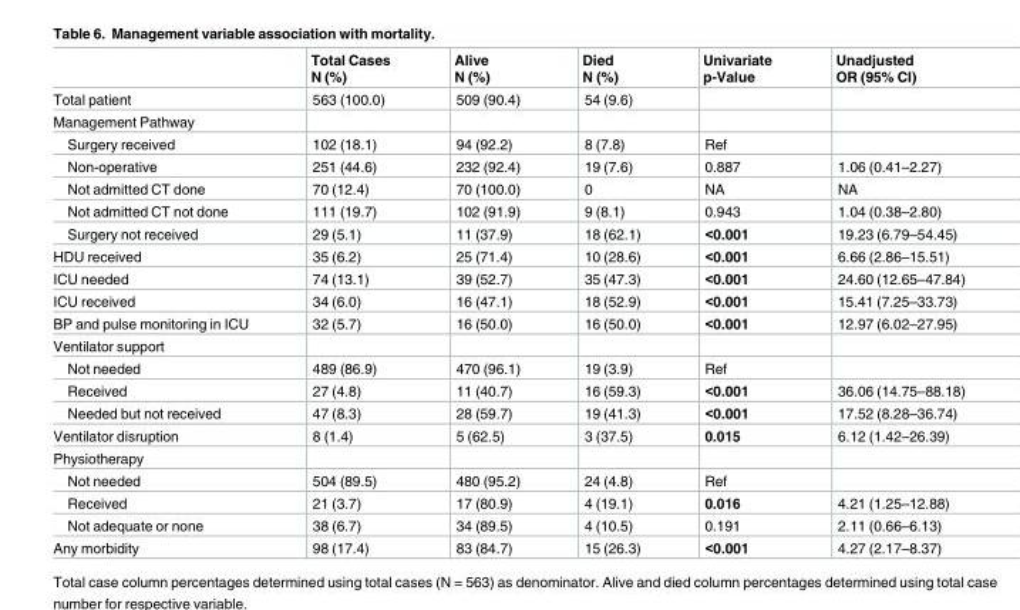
<table><thead><tr><td></td><td>Total Cases N (%)</td><td>Alive N (%)</td><td>Died N (%)</td><td>Univariate p-Value</td><td>Unadjusted OR (95% CI)</td></tr></thead><tbody><tr><td>Total patient</td><td>563 (100.0)</td><td>509 (90.4)</td><td>54 (9.6)</td><td></td><td></td></tr><tr><td colspan="6">Management Pathway</td></tr><tr><td>Surgery received</td><td>102 (18.1)</td><td>94 (92.2)</td><td>8 (7.8)</td><td>Ref</td><td></td></tr><tr><td>Non-operative</td><td>251 (44.6)</td><td>232 (92.4)</td><td>19 (7.6)</td><td>0.887</td><td>1.06 (0.41–2.27)</td></tr><tr><td>Not admitted CT done</td><td>70 (12.4)</td><td>70 (100.0)</td><td>0</td><td>NA</td><td>NA</td></tr><tr><td>Not admitted CT not done</td><td>111 (19.7)</td><td>102 (91.9)</td><td>9 (8.1)</td><td>0.943</td><td>1.04 (0.38–2.80)</td></tr><tr><td>Surgery not received</td><td>29 (5.1)</td><td>11 (37.9)</td><td>18 (62.1)</td><td>&lt;0.001</td><td>19.23 (6.79–54.45)</td></tr><tr><td>HDU received</td><td>35 (6.2)</td><td>25 (71.4)</td><td>10 (28.6)</td><td>&lt;0.001</td><td>6.66 (2.86–15.51)</td></tr><tr><td>ICU needed</td><td>74 (13.1)</td><td>39 (52.7)</td><td>35 (47.3)</td><td>&lt;0.001</td><td>24.60 (12.65–47.84)</td></tr><tr><td>ICU received</td><td>34 (6.0)</td><td>16 (47.1)</td><td>18 (52.9)</td><td>&lt;0.001</td><td>15.41 (7.25–33.73)</td></tr><tr><td>BP and pulse monitoring in ICU</td><td>32 (5.7)</td><td>16 (50.0)</td><td>16 (50.0)</td><td>&lt;0.001</td><td>12.97 (6.02–27.95)</td></tr><tr><td colspan="6">Ventilator support</td></tr><tr><td>Not needed</td><td>489 (86.9)</td><td>470 (96.1)</td><td>19 (3.9)</td><td>Ref</td><td></td></tr><tr><td>Received</td><td>27 (4.8)</td><td>11 (40.7)</td><td>16 (59.3)</td><td>&lt;0.001</td><td>36.06 (14.75–88.18)</td></tr><tr><td>Needed but not received</td><td>47 (8.3)</td><td>28 (59.7)</td><td>19 (41.3)</td><td>&lt;0.001</td><td>17.52 (8.28–36.74)</td></tr><tr><td>Ventilator disruption</td><td>8 (1.4)</td><td>5 (62.5)</td><td>3 (37.5)</td><td>0.015</td><td>6.12 (1.42–26.39)</td></tr><tr><td colspan="6">Physiotherapy</td></tr><tr><td>Not needed</td><td>504 (89.5)</td><td>480 (95.2)</td><td>24 (4.8)</td><td>Ref</td><td></td></tr><tr><td>Received</td><td>21 (3.7)</td><td>17 (80.9)</td><td>4 (19.1)</td><td>0.016</td><td>4.21 (1.25–12.88)</td></tr><tr><td>Not adequate or none</td><td>38 (6.7)</td><td>34 (89.5)</td><td>4 (10.5)</td><td>0.191</td><td>2.11 (0.66–6.13)</td></tr><tr><td>Any morbidity</td><td>98 (17.4)</td><td>83 (84.7)</td><td>15 (26.3)</td><td>&lt;0.001</td><td>4.27 (2.17–8.37)</td></tr></tbody></table>